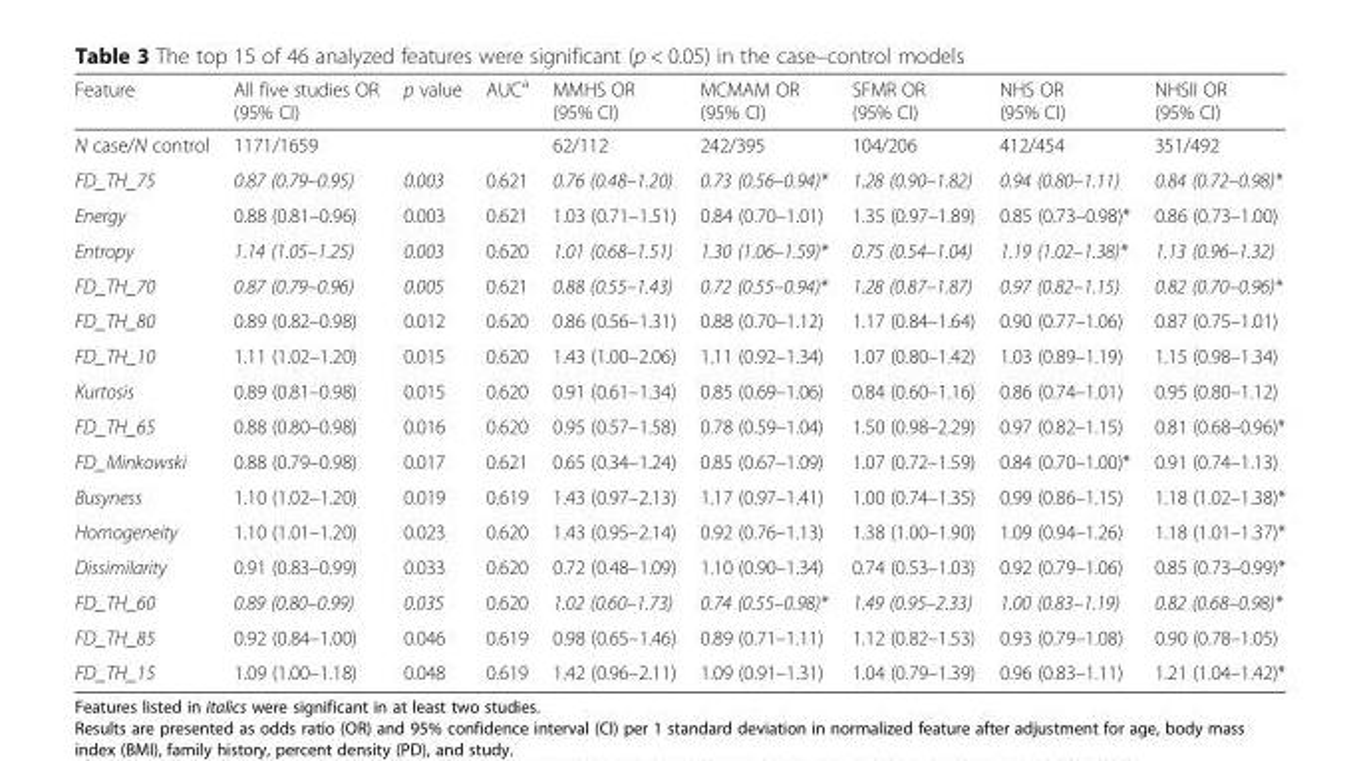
<table><thead><tr><td>Feature</td><td>All five studies OR (95% CI)</td><td>p value</td><td>AUC<sup>a</sup></td><td>MMHS OR (95% CI)</td><td>MCMAM OR (95% CI)</td><td>SFMR OR (95% CI)</td><td>NHS OR (95% CI)</td><td>NHSII OR (95% CI)</td></tr></thead><tbody><tr><td>N case/N control</td><td>1171/1659</td><td></td><td></td><td>62/112</td><td>242/395</td><td>104/206</td><td>412/454</td><td>351/492</td></tr><tr><td>FD_TH_75</td><td>0.87 (0.79–0.95)</td><td>0.003</td><td>0.621</td><td>0.76 (0.48–1.20)</td><td>0.73 (0.56–0.94)*</td><td>1.28 (0.90–1.82)</td><td>0.94 (0.80–1.11)</td><td>0.84 (0.72–0.98)*</td></tr><tr><td>Energy</td><td>0.88 (0.81–0.96)</td><td>0.003</td><td>0.621</td><td>1.03 (0.71–1.51)</td><td>0.84 (0.70–1.01)</td><td>1.35 (0.97–1.89)</td><td>0.85 (0.73–0.98)*</td><td>0.86 (0.73–1.00)</td></tr><tr><td>Entropy</td><td>1.14 (1.05–1.25)</td><td>0.003</td><td>0.620</td><td>1.01 (0.68–1.51)</td><td>1.30 (1.06–1.59)*</td><td>0.75 (0.54–1.04)</td><td>1.19 (1.02–1.38)*</td><td>1.13 (0.96–1.32)</td></tr><tr><td>FD_TH_70</td><td>0.87 (0.79–0.96)</td><td>0.005</td><td>0.621</td><td>0.88 (0.55–1.43)</td><td>0.72 (0.55–0.94)*</td><td>1.28 (0.87–1.87)</td><td>0.97 (0.82–1.15)</td><td>0.82 (0.70–0.96)*</td></tr><tr><td>FD_TH_80</td><td>0.89 (0.82–0.98)</td><td>0.012</td><td>0.620</td><td>0.86 (0.56–1.31)</td><td>0.88 (0.70–1.12)</td><td>1.17 (0.84–1.64)</td><td>0.90 (0.77–1.06)</td><td>0.87 (0.75–1.01)</td></tr><tr><td>FD_TH_10</td><td>1.11 (1.02–1.20)</td><td>0.015</td><td>0.620</td><td>1.43 (1.00–2.06)</td><td>1.11 (0.92–1.34)</td><td>1.07 (0.80–1.42)</td><td>1.03 (0.89–1.19)</td><td>1.15 (0.98–1.34)</td></tr><tr><td>Kurtosis</td><td>0.89 (0.81–0.98)</td><td>0.015</td><td>0.620</td><td>0.91 (0.61–1.34)</td><td>0.85 (0.69–1.06)</td><td>0.84 (0.60–1.16)</td><td>0.86 (0.74–1.01)</td><td>0.95 (0.80–1.12)</td></tr><tr><td>FD_TH_65</td><td>0.88 (0.80–0.98)</td><td>0.016</td><td>0.620</td><td>0.95 (0.57–1.58)</td><td>0.78 (0.59–1.04)</td><td>1.50 (0.98–2.29)</td><td>0.97 (0.82–1.15)</td><td>0.81 (0.68–0.96)*</td></tr><tr><td>FD_Minkowski</td><td>0.88 (0.79–0.98)</td><td>0.017</td><td>0.621</td><td>0.65 (0.34–1.24)</td><td>0.85 (0.67–1.09)</td><td>1.07 (0.72–1.59)</td><td>0.84 (0.70–1.00)*</td><td>0.91 (0.74–1.13)</td></tr><tr><td>Busyness</td><td>1.10 (1.02–1.20)</td><td>0.019</td><td>0.619</td><td>1.43 (0.97–2.13)</td><td>1.17 (0.97–1.41)</td><td>1.00 (0.74–1.35)</td><td>0.99 (0.86–1.15)</td><td>1.18 (1.02–1.38)*</td></tr><tr><td>Homogeneity</td><td>1.10 (1.01–1.20)</td><td>0.023</td><td>0.620</td><td>1.43 (0.95–2.14)</td><td>0.92 (0.76–1.13)</td><td>1.38 (1.00–1.90)</td><td>1.09 (0.94–1.26)</td><td>1.18 (1.01–1.37)*</td></tr><tr><td>Dissimilarity</td><td>0.91 (0.83–0.99)</td><td>0.033</td><td>0.620</td><td>0.72 (0.48–1.09)</td><td>1.10 (0.90–1.34)</td><td>0.74 (0.53–1.03)</td><td>0.92 (0.79–1.06)</td><td>0.85 (0.73–0.99)*</td></tr><tr><td>FD_TH_60</td><td>0.89 (0.80–0.99)</td><td>0.035</td><td>0.620</td><td>1.02 (0.60–1.73)</td><td>0.74 (0.55–0.98)*</td><td>1.49 (0.95–2.33)</td><td>1.00 (0.83–1.19)</td><td>0.82 (0.68–0.98)*</td></tr><tr><td>FD_TH_85</td><td>0.92 (0.84–1.00)</td><td>0.046</td><td>0.619</td><td>0.98 (0.65–1.46)</td><td>0.89 (0.71–1.11)</td><td>1.12 (0.82–1.53)</td><td>0.93 (0.79–1.08)</td><td>0.90 (0.78–1.05)</td></tr><tr><td>FD_TH_15</td><td>1.09 (1.00–1.18)</td><td>0.048</td><td>0.619</td><td>1.42 (0.96–2.11)</td><td>1.09 (0.91–1.31)</td><td>1.04 (0.79–1.39)</td><td>0.96 (0.83–1.11)</td><td>1.21 (1.04–1.42)*</td></tr></tbody></table>